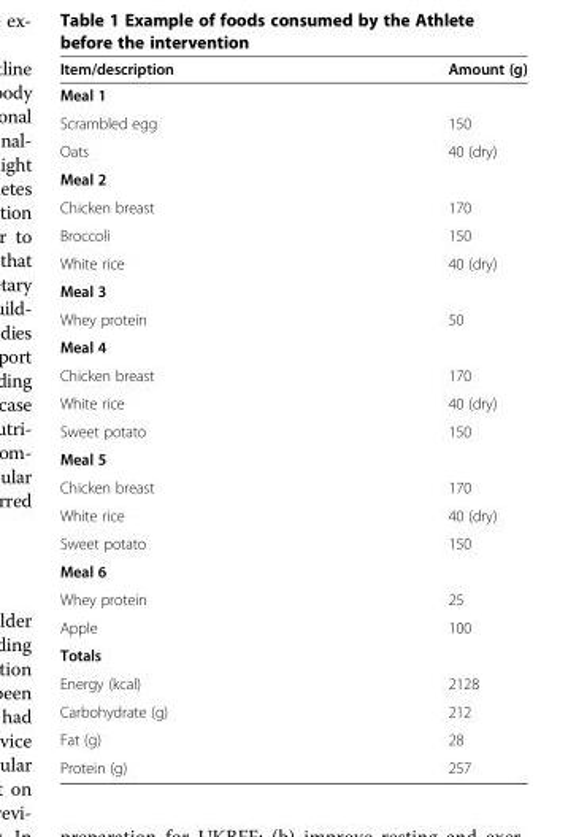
<table><thead><tr><td>Item/description</td><td>Amount (g)</td></tr></thead><tbody><tr><td colspan="2">Meal 1</td></tr><tr><td>Scrambled egg</td><td>150</td></tr><tr><td>Oats</td><td>40 (dry)</td></tr><tr><td colspan="2">Meal 2</td></tr><tr><td>Chicken breast</td><td>170</td></tr><tr><td>Broccoli</td><td>150</td></tr><tr><td>White rice</td><td>40 (dry)</td></tr><tr><td colspan="2">Meal 3</td></tr><tr><td>Whey protein</td><td>50</td></tr><tr><td colspan="2">Meal 4</td></tr><tr><td>Chicken breast</td><td>170</td></tr><tr><td>White rice</td><td>40 (dry)</td></tr><tr><td>Sweet potato</td><td>150</td></tr><tr><td colspan="2">Meal 5</td></tr><tr><td>Chicken breast</td><td>170</td></tr><tr><td>White rice</td><td>40 (dry)</td></tr><tr><td>Sweet potato</td><td>150</td></tr><tr><td colspan="2">Meal 6</td></tr><tr><td>Whey protein</td><td>25</td></tr><tr><td>Apple</td><td>100</td></tr><tr><td colspan="2">Totals</td></tr><tr><td>Energy (kcal)</td><td>2128</td></tr><tr><td>Carbohydrate (g)</td><td>212</td></tr><tr><td>Fat (g)</td><td>28</td></tr><tr><td>Protein (g)</td><td>257</td></tr></tbody></table>